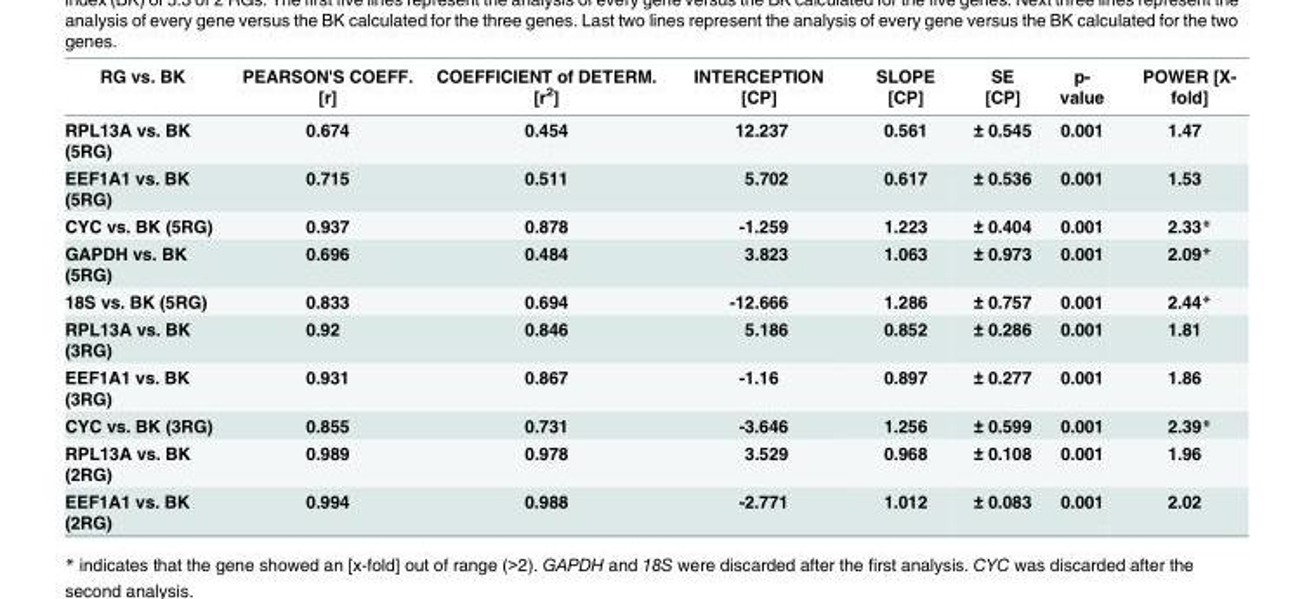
<table><thead><tr><td>RG vs. BK</td><td>PEARSON&#x27;S COEFF. [r]</td><td>COEFFICIENT of DETERM. [r<sup>2</sup>]</td><td>INTERCEPTION [CP]</td><td>SLOPE [CP]</td><td>SE [CP]</td><td>p- value</td><td>POWER [X- fold]</td></tr></thead><tbody><tr><td>RPL13A vs. BK (5RG)</td><td>0.674</td><td>0.454</td><td>12.237</td><td>0.561</td><td>± 0.545</td><td>0.001</td><td>1.47</td></tr><tr><td>EEF1A1 vs. BK (5RG)</td><td>0.715</td><td>0.511</td><td>5.702</td><td>0.617</td><td>± 0.536</td><td>0.001</td><td>1.53</td></tr><tr><td>CYC vs. BK (5RG)</td><td>0.937</td><td>0.878</td><td>-1.259</td><td>1.223</td><td>± 0.404</td><td>0.001</td><td>2.33*</td></tr><tr><td>GAPDH vs. BK (5RG)</td><td>0.696</td><td>0.484</td><td>3.823</td><td>1.063</td><td>± 0.973</td><td>0.001</td><td>2.09*</td></tr><tr><td>18S vs. BK (5RG)</td><td>0.833</td><td>0.694</td><td>-12.666</td><td>1.286</td><td>± 0.757</td><td>0.001</td><td>2.44*</td></tr><tr><td>RPL13A vs. BK (3RG)</td><td>0.92</td><td>0.846</td><td>5.186</td><td>0.852</td><td>± 0.286</td><td>0.001</td><td>1.81</td></tr><tr><td>EEF1A1 vs. BK (3RG)</td><td>0.931</td><td>0.867</td><td>-1.16</td><td>0.897</td><td>± 0.277</td><td>0.001</td><td>1.86</td></tr><tr><td>CYC vs. BK (3RG)</td><td>0.855</td><td>0.731</td><td>-3.646</td><td>1.256</td><td>± 0.599</td><td>0.001</td><td>2.39*</td></tr><tr><td>RPL13A vs. BK (2RG)</td><td>0.989</td><td>0.978</td><td>3.529</td><td>0.968</td><td>± 0.108</td><td>0.001</td><td>1.96</td></tr><tr><td>EEF1A1 vs. BK (2RG)</td><td>0.994</td><td>0.988</td><td>-2.771</td><td>1.012</td><td>± 0.083</td><td>0.001</td><td>2.02</td></tr></tbody></table>